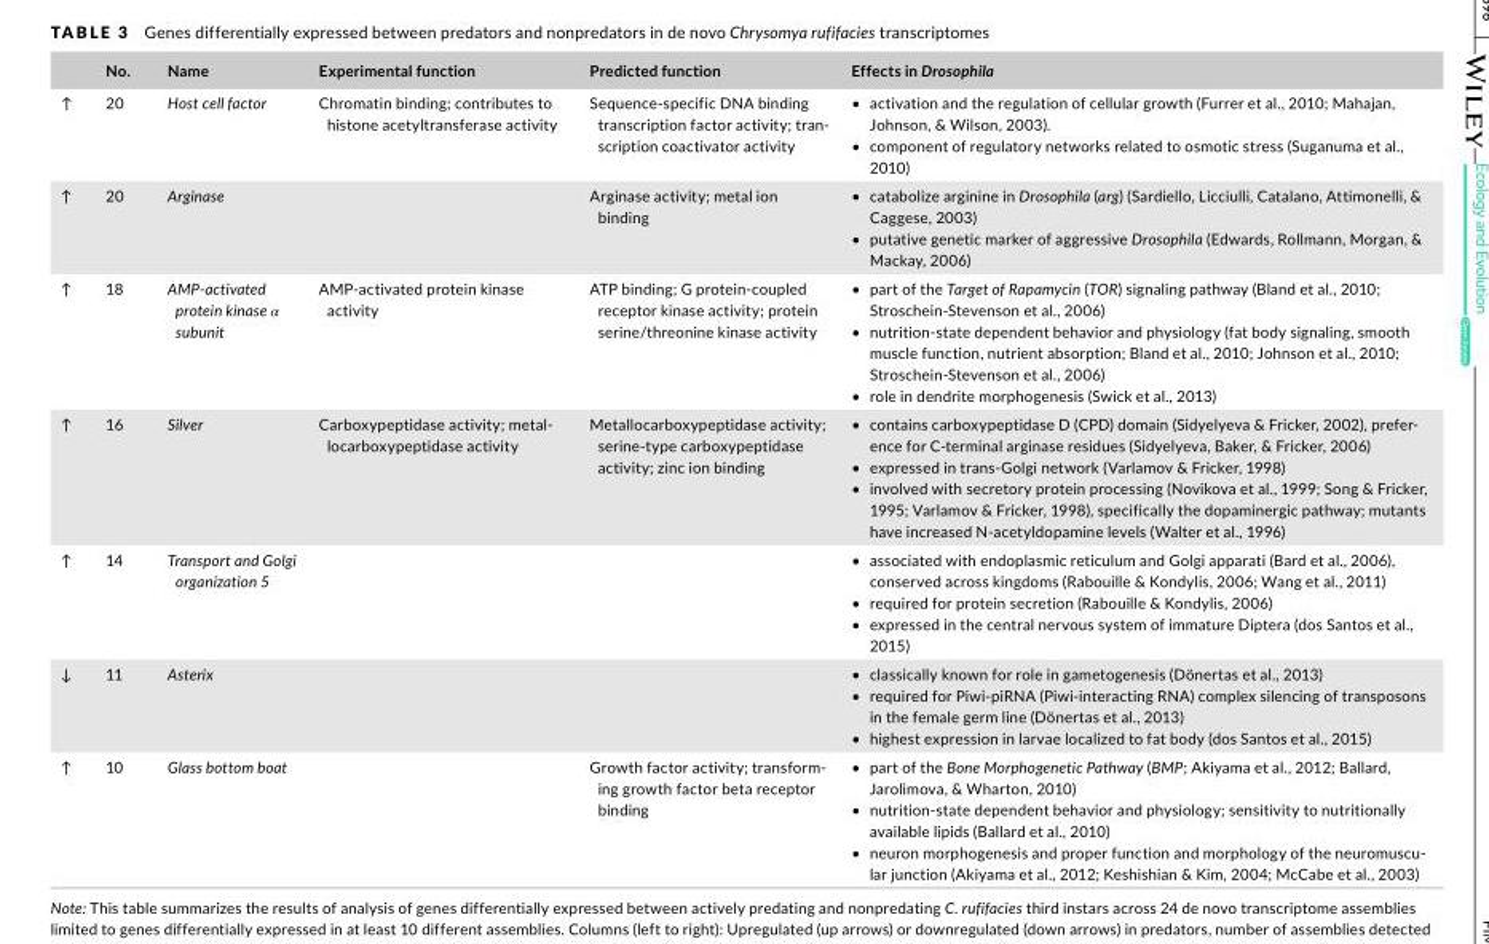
<table><thead><tr><td></td><td>No.</td><td>Name</td><td>Experimental function</td><td>Predicted function</td><td>Effects in Drosophila</td></tr></thead><tbody><tr><td>↑</td><td>20</td><td>Host cell factor</td><td>Chromatin binding; contributes to histone acetyltransferase activity</td><td>Sequence‐specific DNA binding transcription factor activity; tran- scription coactivator activity</td><td>• activation and the regulation of cellular growth (Furrer et al., 2010; Mahajan, Johnson, &amp; Wilson, 2003). • component of regulatory networks related to osmotic stress (Suganuma et al., 2010)</td></tr><tr><td>↑</td><td>20</td><td>Arginase</td><td></td><td>Arginase activity; metal ion binding</td><td>• catabolize arginine in Drosophila (arg) (Sardiello, Licciulli, Catalano, Attimonelli, &amp; Caggese, 2003) • putative genetic marker of aggressive Drosophila (Edwards, Rollmann, Morgan, &amp; Mackay, 2006)</td></tr><tr><td>↑</td><td>18</td><td>AMP‐activated protein kinase α subunit</td><td>AMP‐activated protein kinase activity</td><td>ATP binding; G protein‐coupled receptor kinase activity; protein serine/threonine kinase activity</td><td>• part of the Target of Rapamycin (TOR) signaling pathway (Bland et al., 2010; Stroschein-Stevenson et al., 2006) • nutrition-state dependent behavior and physiology (fat body signaling, smooth muscle function, nutrient absorption; Bland et al., 2010; Johnson et al., 2010; Stroschein-Stevenson et al., 2006) • role in dendrite morphogenesis (Swick et al., 2013)</td></tr><tr><td>↑</td><td>16</td><td>Silver</td><td>Carboxypeptidase activity; metal- locarboxypeptidase activity</td><td>Metallocarboxypeptidase activity; serine-type carboxypeptidase activity; zinc ion binding</td><td>• contains carboxypeptidase D (CPD) domain (Sidyelyeva &amp; Fricker, 2002), prefer- ence for C-terminal arginase residues (Sidyelyeva, Baker, &amp; Fricker, 2006) • expressed in trans-Golgi network (Varlamov &amp; Fricker, 1998) • involved with secretory protein processing (Novikova et al., 1999; Song &amp; Fricker, 1995; Varlamov &amp; Fricker, 1998), specifically the dopaminergic pathway; mutants have increased N-acetyldopamine levels (Walter et al., 1996)</td></tr><tr><td>↑</td><td>14</td><td>Transport and Golgi organization 5</td><td></td><td></td><td>• associated with endoplasmic reticulum and Golgi apparati (Bard et al., 2006), conserved across kingdoms (Rabouille &amp; Kondylis, 2006; Wang et al., 2011) • required for protein secretion (Rabouille &amp; Kondylis, 2006) • expressed in the central nervous system of immature Diptera (dos Santos et al., 2015)</td></tr><tr><td>↓</td><td>11</td><td>Asterix</td><td></td><td></td><td>• classically known for role in gametogenesis (Dönertas et al., 2013) • required for Piwi‐piRNA (Piwi‐interacting RNA) complex silencing of transposons in the female germ line (Dönertas et al., 2013) • highest expression in larvae localized to fat body (dos Santos et al., 2015)</td></tr><tr><td>↑</td><td>10</td><td>Glass bottom boat</td><td></td><td>Growth factor activity; transform- ing growth factor beta receptor binding</td><td>• part of the Bone Morphogenetic Pathway (BMP; Akiyama et al., 2012; Ballard, Jarolimova, &amp; Wharton, 2010) • nutrition-state dependent behavior and physiology; sensitivity to nutritionally available lipids (Ballard et al., 2010) • neuron morphogenesis and proper function and morphology of the neuromuscu- lar junction (Akiyama et al., 2012; Keshishian &amp; Kim, 2004; McCabe et al., 2003)</td></tr></tbody></table>